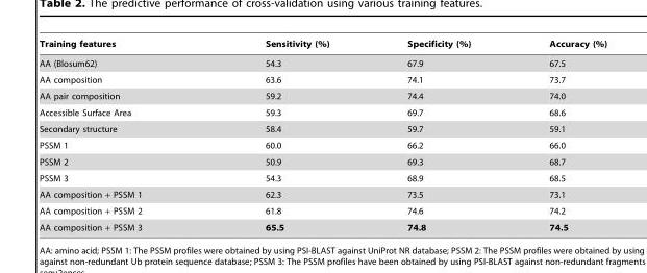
<table><thead><tr><td>Training features</td><td>Sensitivity (%)</td><td>Specificity (%)</td><td>Accuracy (%)</td></tr></thead><tbody><tr><td>AA (Blosum62)</td><td>54.3</td><td>67.9</td><td>67.5</td></tr><tr><td>AA composition</td><td>63.6</td><td>74.1</td><td>73.7</td></tr><tr><td>AA pair composition</td><td>59.2</td><td>74.4</td><td>74.0</td></tr><tr><td>Accessible Surface Area</td><td>59.3</td><td>69.7</td><td>68.6</td></tr><tr><td>Secondary structure</td><td>58.4</td><td>59.7</td><td>59.1</td></tr><tr><td>PSSM 1</td><td>60.0</td><td>66.2</td><td>66.0</td></tr><tr><td>PSSM 2</td><td>50.9</td><td>69.3</td><td>68.7</td></tr><tr><td>PSSM 3</td><td>54.3</td><td>68.9</td><td>68.5</td></tr><tr><td>AA composition + PSSM 1</td><td>62.3</td><td>73.5</td><td>73.1</td></tr><tr><td>AA composition + PSSM 2</td><td>61.8</td><td>74.6</td><td>74.2</td></tr><tr><td>AA composition + PSSM 3</td><td>65.5</td><td>74.8</td><td>74.5</td></tr></tbody></table>